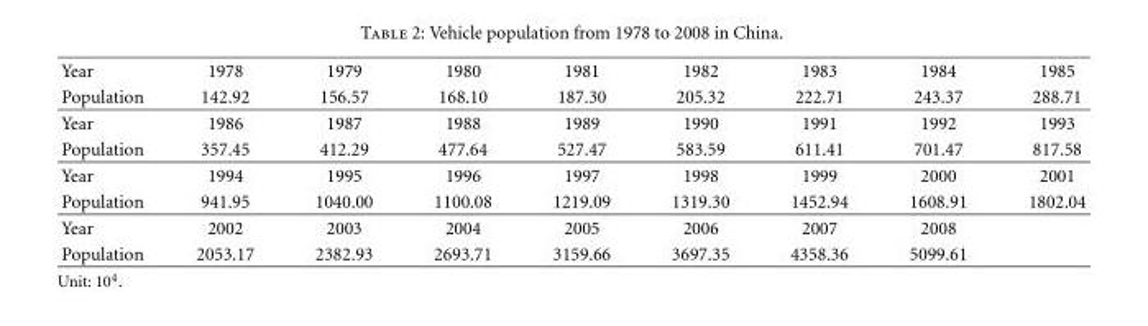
<table><tbody><tr><td>Year</td><td>1978</td><td>1979</td><td>1980</td><td>1981</td><td>1982</td><td>1983</td><td>1984</td><td>1985</td></tr><tr><td>Population</td><td>142.92</td><td>156.57</td><td>168.10</td><td>187.30</td><td>205.32</td><td>222.71</td><td>243.37</td><td>288.71</td></tr><tr><td>Year</td><td>1986</td><td>1987</td><td>1988</td><td>1989</td><td>1990</td><td>1991</td><td>1992</td><td>1993</td></tr><tr><td>Population</td><td>357.45</td><td>412.29</td><td>477.64</td><td>527.47</td><td>583.59</td><td>611.41</td><td>701.47</td><td>817.58</td></tr><tr><td>Year</td><td>1994</td><td>1995</td><td>1996</td><td>1997</td><td>1998</td><td>1999</td><td>2000</td><td>2001</td></tr><tr><td>Population</td><td>941.95</td><td>1040.00</td><td>1100.08</td><td>1219.09</td><td>1319.30</td><td>1452.94</td><td>1608.91</td><td>1802.04</td></tr><tr><td>Year</td><td>2002</td><td>2003</td><td>2004</td><td>2005</td><td>2006</td><td>2007</td><td>2008</td><td></td></tr><tr><td>Population</td><td>2053.17</td><td>2382.93</td><td>2693.71</td><td>3159.66</td><td>3697.35</td><td>4358.36</td><td>5099.61</td><td></td></tr></tbody></table>